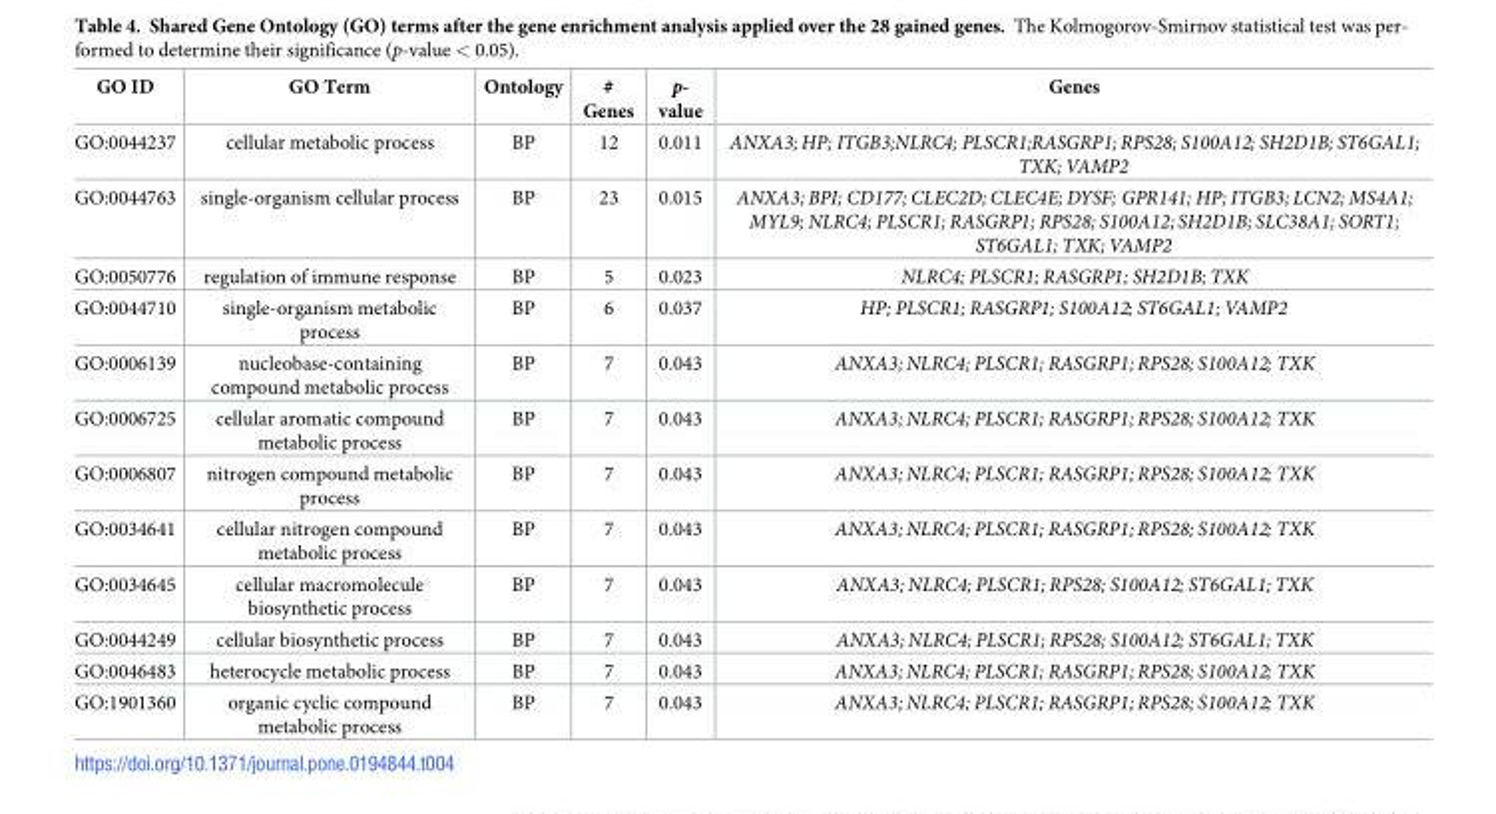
<table><thead><tr><td>GO ID</td><td>GO Term</td><td>Ontology</td><td># Genes</td><td>p- value</td><td>Genes</td></tr></thead><tbody><tr><td>GO:0044237</td><td>cellular metabolic process</td><td>BP</td><td>12</td><td>0.011</td><td>ANXA3; HP; ITGB3;NLRC4; PLSCR1;RASGRP1; RPS28; S100A12; SH2D1B; ST6GAL1; TXK; VAMP2</td></tr><tr><td>GO:0044763</td><td>single-organism cellular process</td><td>BP</td><td>23</td><td>0.015</td><td>ANXA3; BPI; CD177; CLEC2D; CLEC4E; DYSF; GPR141; HP; ITGB3; LCN2; MS4A1; MYL9; NLRC4; PLSCR1; RASGRP1; RPS28; S100A12; SH2D1B; SLC38A1; SORT1; ST6GAL1; TXK; VAMP2</td></tr><tr><td>GO:0050776</td><td>regulation of immune response</td><td>BP</td><td>5</td><td>0.023</td><td>NLRC4; PLSCR1; RASGRP1; SH2D1B; TXK</td></tr><tr><td>GO:0044710</td><td>single-organism metabolic process</td><td>BP</td><td>6</td><td>0.037</td><td>HP; PLSCR1; RASGRP1; S100A12; ST6GAL1; VAMP2</td></tr><tr><td>GO:0006139</td><td>nucleobase-containing compound metabolic process</td><td>BP</td><td>7</td><td>0.043</td><td>ANXA3; NLRC4; PLSCR1; RASGRP1; RPS28; S100A12; TXK</td></tr><tr><td>GO:0006725</td><td>cellular aromatic compound metabolic process</td><td>BP</td><td>7</td><td>0.043</td><td>ANXA3; NLRC4; PLSCR1; RASGRP1; RPS28; S100A12; TXK</td></tr><tr><td>GO:0006807</td><td>nitrogen compound metabolic process</td><td>BP</td><td>7</td><td>0.043</td><td>ANXA3; NLRC4; PLSCR1; RASGRP1; RPS28; S100A12; TXK</td></tr><tr><td>GO:0034641</td><td>cellular nitrogen compound metabolic process</td><td>BP</td><td>7</td><td>0.043</td><td>ANXA3; NLRC4; PLSCR1; RASGRP1; RPS28; S100A12; TXK</td></tr><tr><td>GO:0034645</td><td>cellular macromolecule biosynthetic process</td><td>BP</td><td>7</td><td>0.043</td><td>ANXA3; NLRC4; PLSCR1; RPS28; S100A12; ST6GAL1; TXK</td></tr><tr><td>GO:0044249</td><td>cellular biosynthetic process</td><td>BP</td><td>7</td><td>0.043</td><td>ANXA3; NLRC4; PLSCR1; RPS28; S100A12; ST6GAL1; TXK</td></tr><tr><td>GO:0046483</td><td>heterocycle metabolic process</td><td>BP</td><td>7</td><td>0.043</td><td>ANXA3; NLRC4; PLSCR1; RASGRP1; RPS28; S100A12; TXK</td></tr><tr><td>GO:1901360</td><td>organic cyclic compound metabolic process</td><td>BP</td><td>7</td><td>0.043</td><td>ANXA3; NLRC4; PLSCR1; RASGRP1; RPS28; S100A12; TXK</td></tr></tbody></table>